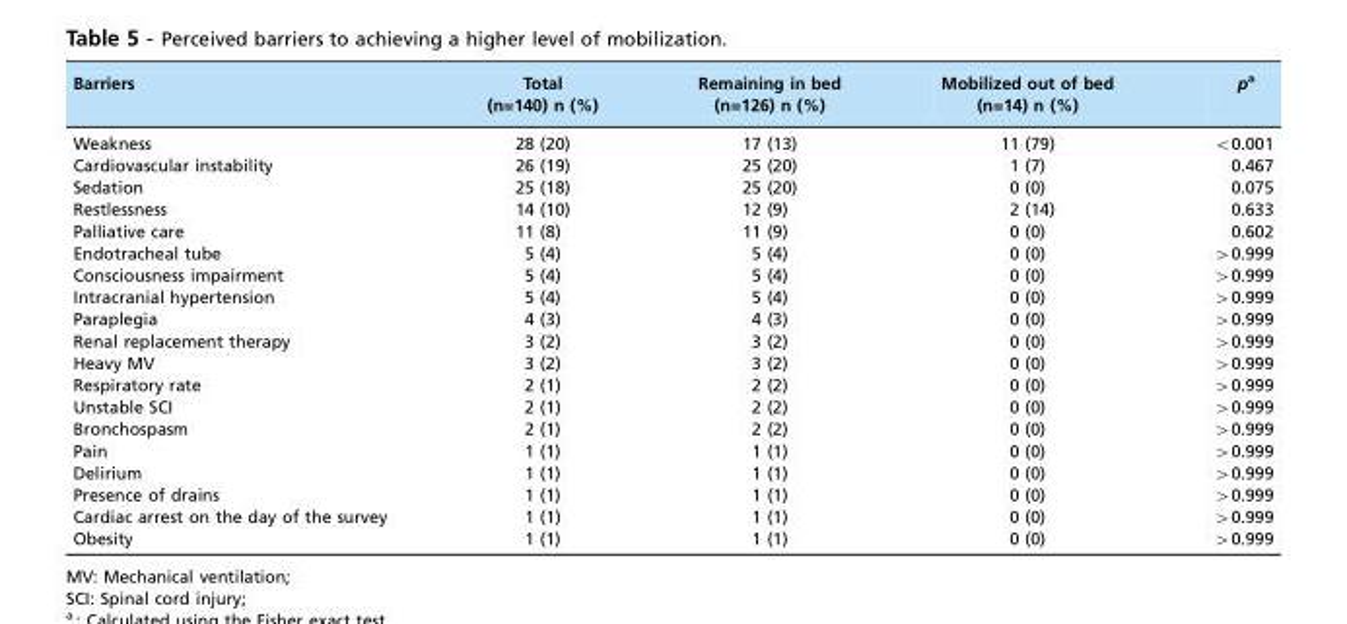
<table><thead><tr><td>Barriers</td><td>Total (n=140) n (%)</td><td>Remaining in bed (n=126) n (%)</td><td>Mobilized out of bed (n=14) n (%)</td><td>p<sup>a</sup></td></tr></thead><tbody><tr><td>Weakness</td><td>28 (20)</td><td>17 (13)</td><td>11 (79)</td><td>&lt;0.001</td></tr><tr><td>Cardiovascular instability</td><td>26 (19)</td><td>25 (20)</td><td>1 (7)</td><td>0.467</td></tr><tr><td>Sedation</td><td>25 (18)</td><td>25 (20)</td><td>0 (0)</td><td>0.075</td></tr><tr><td>Restlessness</td><td>14 (10)</td><td>12 (9)</td><td>2 (14)</td><td>0.633</td></tr><tr><td>Palliative care</td><td>11 (8)</td><td>11 (9)</td><td>0 (0)</td><td>0.602</td></tr><tr><td>Endotracheal tube</td><td>5 (4)</td><td>5 (4)</td><td>0 (0)</td><td>&gt;0.999</td></tr><tr><td>Consciousness impairment</td><td>5 (4)</td><td>5 (4)</td><td>0 (0)</td><td>&gt;0.999</td></tr><tr><td>Intracranial hypertension</td><td>5 (4)</td><td>5 (4)</td><td>0 (0)</td><td>&gt;0.999</td></tr><tr><td>Paraplegia</td><td>4 (3)</td><td>4 (3)</td><td>0 (0)</td><td>&gt;0.999</td></tr><tr><td>Renal replacement therapy</td><td>3 (2)</td><td>3 (2)</td><td>0 (0)</td><td>&gt;0.999</td></tr><tr><td>Heavy MV</td><td>3 (2)</td><td>3 (2)</td><td>0 (0)</td><td>&gt;0.999</td></tr><tr><td>Respiratory rate</td><td>2 (1)</td><td>2 (2)</td><td>0 (0)</td><td>&gt;0.999</td></tr><tr><td>Unstable SCI</td><td>2 (1)</td><td>2 (2)</td><td>0 (0)</td><td>&gt;0.999</td></tr><tr><td>Bronchospasm</td><td>2 (1)</td><td>2 (2)</td><td>0 (0)</td><td>&gt;0.999</td></tr><tr><td>Pain</td><td>1 (1)</td><td>1 (1)</td><td>0 (0)</td><td>&gt;0.999</td></tr><tr><td>Delirium</td><td>1 (1)</td><td>1 (1)</td><td>0 (0)</td><td>&gt;0.999</td></tr><tr><td>Presence of drains</td><td>1 (1)</td><td>1 (1)</td><td>0 (0)</td><td>&gt;0.999</td></tr><tr><td>Cardiac arrest on the day of the survey</td><td>1 (1)</td><td>1 (1)</td><td>0 (0)</td><td>&gt;0.999</td></tr><tr><td>Obesity</td><td>1 (1)</td><td>1 (1)</td><td>0 (0)</td><td>&gt;0.999</td></tr></tbody></table>